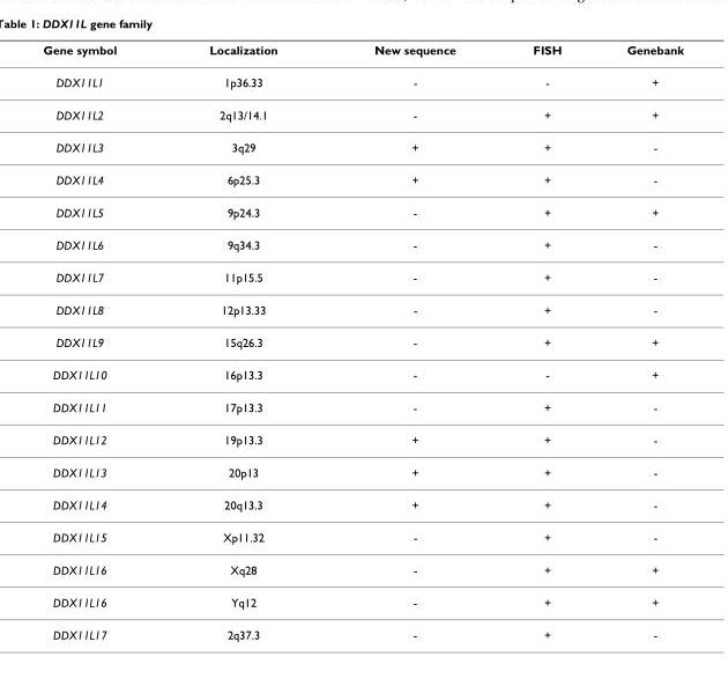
<table><thead><tr><td>Gene symbol</td><td>Localization</td><td>New sequence</td><td>FISH</td><td>Genebank</td></tr></thead><tbody><tr><td>DDX11L1</td><td>1p36.33</td><td>-</td><td>-</td><td>+</td></tr><tr><td>DDX11L2</td><td>2q13/14.1</td><td>-</td><td>+</td><td>+</td></tr><tr><td>DDX11L3</td><td>3q29</td><td>+</td><td>+</td><td>-</td></tr><tr><td>DDX11L4</td><td>6p25.3</td><td>+</td><td>+</td><td>-</td></tr><tr><td>DDX11L5</td><td>9p24.3</td><td>-</td><td>+</td><td>+</td></tr><tr><td>DDX11L6</td><td>9q34.3</td><td>-</td><td>+</td><td>-</td></tr><tr><td>DDX11L7</td><td>11p15.5</td><td>-</td><td>+</td><td>-</td></tr><tr><td>DDX11L8</td><td>12p13.33</td><td>-</td><td>+</td><td>-</td></tr><tr><td>DDX11L9</td><td>15q26.3</td><td>-</td><td>+</td><td>+</td></tr><tr><td>DDX11L10</td><td>16p13.3</td><td>-</td><td>-</td><td>+</td></tr><tr><td>DDX11L11</td><td>17p13.3</td><td>-</td><td>+</td><td>-</td></tr><tr><td>DDX11L12</td><td>19p13.3</td><td>+</td><td>+</td><td>-</td></tr><tr><td>DDX11L13</td><td>20p13</td><td>+</td><td>+</td><td>-</td></tr><tr><td>DDX11L14</td><td>20q13.3</td><td>+</td><td>+</td><td>-</td></tr><tr><td>DDX11L15</td><td>Xp11.32</td><td>-</td><td>+</td><td>-</td></tr><tr><td>DDX11L16</td><td>Xq28</td><td>-</td><td>+</td><td>+</td></tr><tr><td>DDX11L16</td><td>Yq12</td><td>-</td><td>+</td><td>+</td></tr><tr><td>DDX11L17</td><td>2q37.3</td><td>-</td><td>+</td><td>-</td></tr></tbody></table>